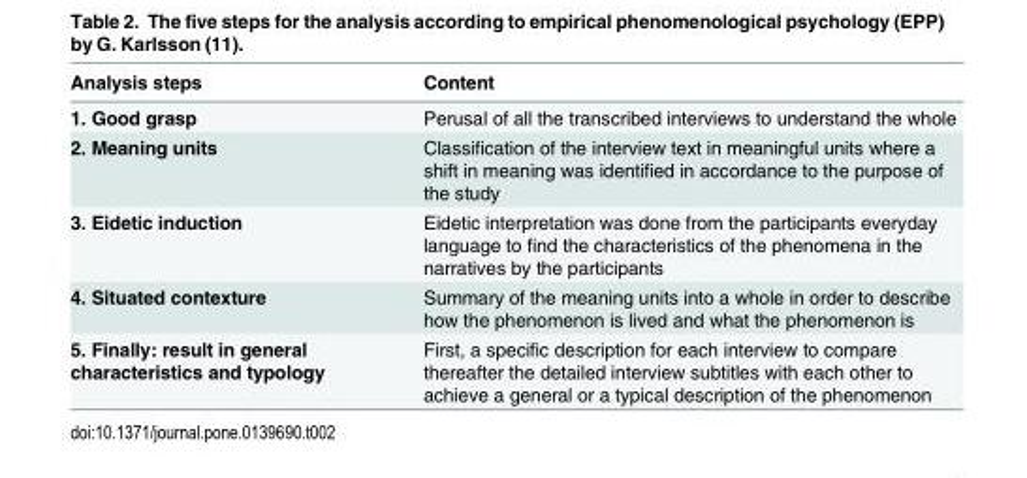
<table><thead><tr><td>Analysis steps</td><td>Content</td></tr></thead><tbody><tr><td>1. Good grasp</td><td>Perusal of all the transcribed interviews to understand the whole</td></tr><tr><td>2. Meaning units</td><td>Classification of the interview text in meaningful units where a shift in meaning was identified in accordance to the purpose of the study</td></tr><tr><td>3. Eidetic induction</td><td>Eidetic interpretation was done from the participants everyday language to find the characteristics of the phenomena in the narratives by the participants</td></tr><tr><td>4. Situated contexture</td><td>Summary of the meaning units into a whole in order to describe how the phenomenon is lived and what the phenomenon is</td></tr><tr><td>5. Finally: result in general characteristics and typology</td><td>First, a specific description for each interview to compare thereafter the detailed interview subtitles with each other to achieve a general or a typical description of the phenomenon</td></tr></tbody></table>